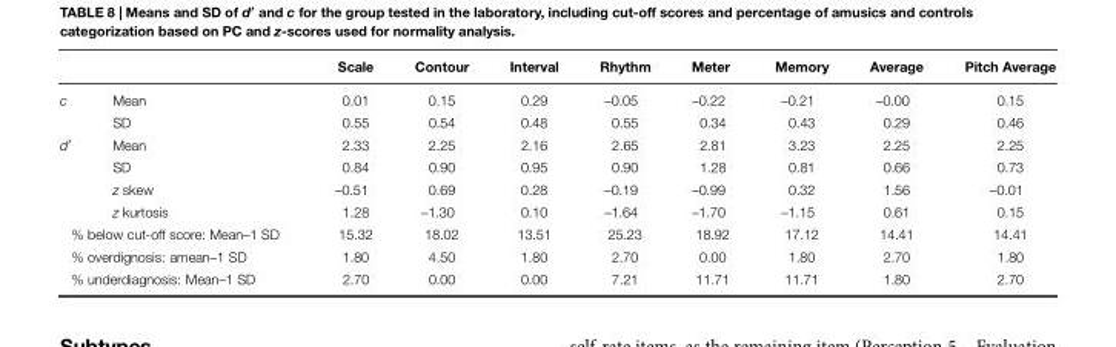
<table><thead><tr><td></td><td></td><td>Scale</td><td>Contour</td><td>Interval</td><td>Rhythm</td><td>Meter</td><td>Memory</td><td>Average</td><td>Pitch Average</td></tr></thead><tbody><tr><td rowspan="2">c</td><td>Mean</td><td>0.01</td><td>0.15</td><td>0.29</td><td>–0.05</td><td>–0.22</td><td>–0.21</td><td>–0.00</td><td>0.15</td></tr><tr><td>SD</td><td>0.55</td><td>0.54</td><td>0.48</td><td>0.55</td><td>0.34</td><td>0.43</td><td>0.29</td><td>0.46</td></tr><tr><td rowspan="4">d<sup>′</sup></td><td>Mean</td><td>2.33</td><td>2.25</td><td>2.16</td><td>2.65</td><td>2.81</td><td>3.23</td><td>2.25</td><td>2.25</td></tr><tr><td>SD</td><td>0.84</td><td>0.90</td><td>0.95</td><td>0.90</td><td>1.28</td><td>0.81</td><td>0.66</td><td>0.73</td></tr><tr><td>z skew</td><td>–0.51</td><td>0.69</td><td>0.28</td><td>–0.19</td><td>–0.99</td><td>0.32</td><td>1.56</td><td>–0.01</td></tr><tr><td>z kurtosis</td><td>1.28</td><td>–1.30</td><td>0.10</td><td>–1.64</td><td>–1.70</td><td>–1.15</td><td>0.61</td><td>0.15</td></tr><tr><td colspan="2">% below cut-off score: Mean–1 SD</td><td>15.32</td><td>18.02</td><td>13.51</td><td>25.23</td><td>18.92</td><td>17.12</td><td>14.41</td><td>14.41</td></tr><tr><td colspan="2">% overdignosis: amean–1 SD</td><td>1.80</td><td>4.50</td><td>1.80</td><td>2.70</td><td>0.00</td><td>1.80</td><td>2.70</td><td>1.80</td></tr><tr><td colspan="2">% underdiagnosis: Mean–1 SD</td><td>2.70</td><td>0.00</td><td>0.00</td><td>7.21</td><td>11.71</td><td>11.71</td><td>1.80</td><td>2.70</td></tr></tbody></table>